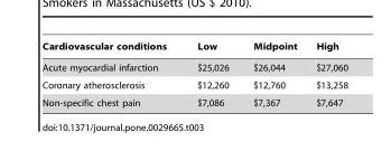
<table><thead><tr><td>Cardiovascular conditions</td><td>Low</td><td>Midpoint</td><td>High</td></tr></thead><tbody><tr><td>Acute myocardial infarction</td><td>$25,026</td><td>$26,044</td><td>$27,060</td></tr><tr><td>Coronary atherosclerosis</td><td>$12,260</td><td>$12,760</td><td>$13,258</td></tr><tr><td>Non-specific chest pain</td><td>$7,086</td><td>$7,367</td><td>$7,647</td></tr></tbody></table>